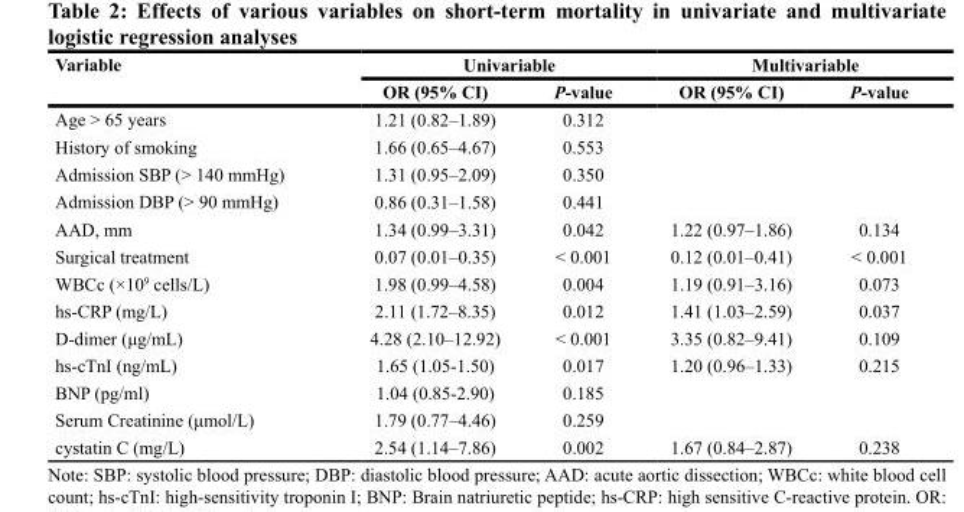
<table><thead><tr><td rowspan="2">Variable</td><td colspan="2">Univariable</td><td colspan="2">Multivariable</td></tr><tr><td>OR (95% CI)</td><td>P-value</td><td>OR (95% CI)</td><td>P-value</td></tr></thead><tbody><tr><td>Age &gt; 65 years</td><td>1.21 (0.82–1.89)</td><td>0.312</td><td></td><td></td></tr><tr><td>History of smoking</td><td>1.66 (0.65–4.67)</td><td>0.553</td><td></td><td></td></tr><tr><td>Admission SBP (&gt; 140 mmHg)</td><td>1.31 (0.95–2.09)</td><td>0.350</td><td></td><td></td></tr><tr><td>Admission DBP (&gt; 90 mmHg)</td><td>0.86 (0.31–1.58)</td><td>0.441</td><td></td><td></td></tr><tr><td>AAD, mm</td><td>1.34 (0.99–3.31)</td><td>0.042</td><td>1.22 (0.97–1.86)</td><td>0.134</td></tr><tr><td>Surgical treatment</td><td>0.07 (0.01–0.35)</td><td>&lt; 0.001</td><td>0.12 (0.01–0.41)</td><td>&lt; 0.001</td></tr><tr><td>WBCc (×10<sup>9</sup> cells/L)</td><td>1.98 (0.99–4.58)</td><td>0.004</td><td>1.19 (0.91–3.16)</td><td>0.073</td></tr><tr><td>hs-CRP (mg/L)</td><td>2.11 (1.72–8.35)</td><td>0.012</td><td>1.41 (1.03–2.59)</td><td>0.037</td></tr><tr><td>D-dimer (μg/mL)</td><td>4.28 (2.10–12.92)</td><td>&lt; 0.001</td><td>3.35 (0.82–9.41)</td><td>0.109</td></tr><tr><td>hs-cTnI (ng/mL)</td><td>1.65 (1.05-1.50)</td><td>0.017</td><td>1.20 (0.96–1.33)</td><td>0.215</td></tr><tr><td>BNP (pg/ml)</td><td>1.04 (0.85-2.90)</td><td>0.185</td><td></td><td></td></tr><tr><td>Serum Creatinine (μmol/L)</td><td>1.79 (0.77–4.46)</td><td>0.259</td><td></td><td></td></tr><tr><td>cystatin C (mg/L)</td><td>2.54 (1.14–7.86)</td><td>0.002</td><td>1.67 (0.84–2.87)</td><td>0.238</td></tr></tbody></table>